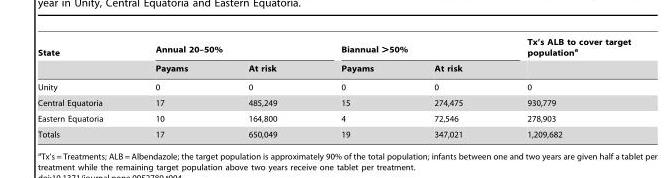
<table><thead><tr><td rowspan="2">State</td><td colspan="2">Annual 20–50%</td><td colspan="2">Biannual &gt;50%</td><td rowspan="2">Tx’s ALB to cover target population<sup>a</sup></td></tr><tr><td>Payams</td><td>At risk</td><td>Payams</td><td>At risk</td></tr></thead><tbody><tr><td>Unity</td><td>0</td><td>0</td><td>0</td><td>0</td><td>0</td></tr><tr><td>Central Equatoria</td><td>17</td><td>485,249</td><td>15</td><td>274,475</td><td>930,779</td></tr><tr><td>Eastern Equatoria</td><td>10</td><td>164,800</td><td>4</td><td>72,546</td><td>278,903</td></tr><tr><td>Totals</td><td>17</td><td>650,049</td><td>19</td><td>347,021</td><td>1,209,682</td></tr></tbody></table>